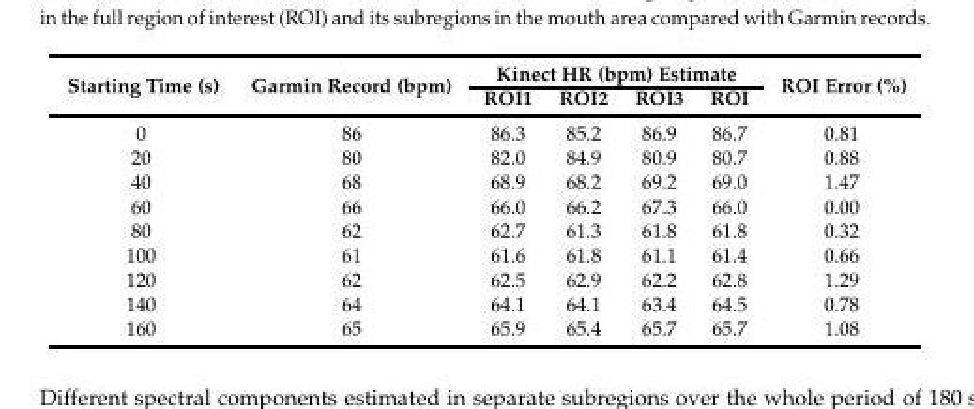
<table><thead><tr><td rowspan="2">Starting Time (s)</td><td rowspan="2">Garmin Record (bpm)</td><td colspan="4">Kinect HR (bpm) Estimate</td><td rowspan="2">ROI Error (%)</td></tr><tr><td>ROI1</td><td>ROI2</td><td>ROI3</td><td>ROI</td></tr></thead><tbody><tr><td>0</td><td>86</td><td>86.3</td><td>85.2</td><td>86.9</td><td>86.7</td><td>0.81</td></tr><tr><td>20</td><td>80</td><td>82.0</td><td>84.9</td><td>80.9</td><td>80.7</td><td>0.88</td></tr><tr><td>40</td><td>68</td><td>68.9</td><td>68.2</td><td>69.2</td><td>69.0</td><td>1.47</td></tr><tr><td>60</td><td>66</td><td>66.0</td><td>66.2</td><td>67.3</td><td>66.0</td><td>0.00</td></tr><tr><td>80</td><td>62</td><td>62.7</td><td>61.3</td><td>61.8</td><td>61.8</td><td>0.32</td></tr><tr><td>100</td><td>61</td><td>61.6</td><td>61.8</td><td>61.1</td><td>61.4</td><td>0.66</td></tr><tr><td>120</td><td>62</td><td>62.5</td><td>62.9</td><td>62.2</td><td>62.8</td><td>1.29</td></tr><tr><td>140</td><td>64</td><td>64.1</td><td>64.1</td><td>63.4</td><td>64.5</td><td>0.78</td></tr><tr><td>160</td><td>65</td><td>65.9</td><td>65.4</td><td>65.7</td><td>65.7</td><td>1.08</td></tr></tbody></table>